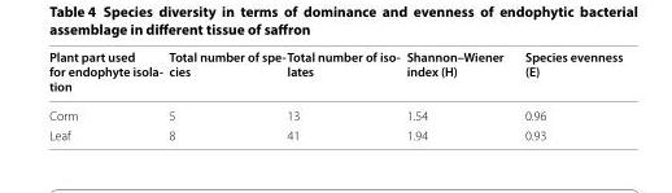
<table><thead><tr><td>Plant part used for endophyte isola- tion</td><td>Total number of spe- cies</td><td>Total number of iso- lates</td><td>Shannon–Wiener index (H)</td><td>Species evenness (E)</td></tr></thead><tbody><tr><td>Corm</td><td>5</td><td>13</td><td>1.54</td><td>0.96</td></tr><tr><td>Leaf</td><td>8</td><td>41</td><td>1.94</td><td>0.93</td></tr></tbody></table>